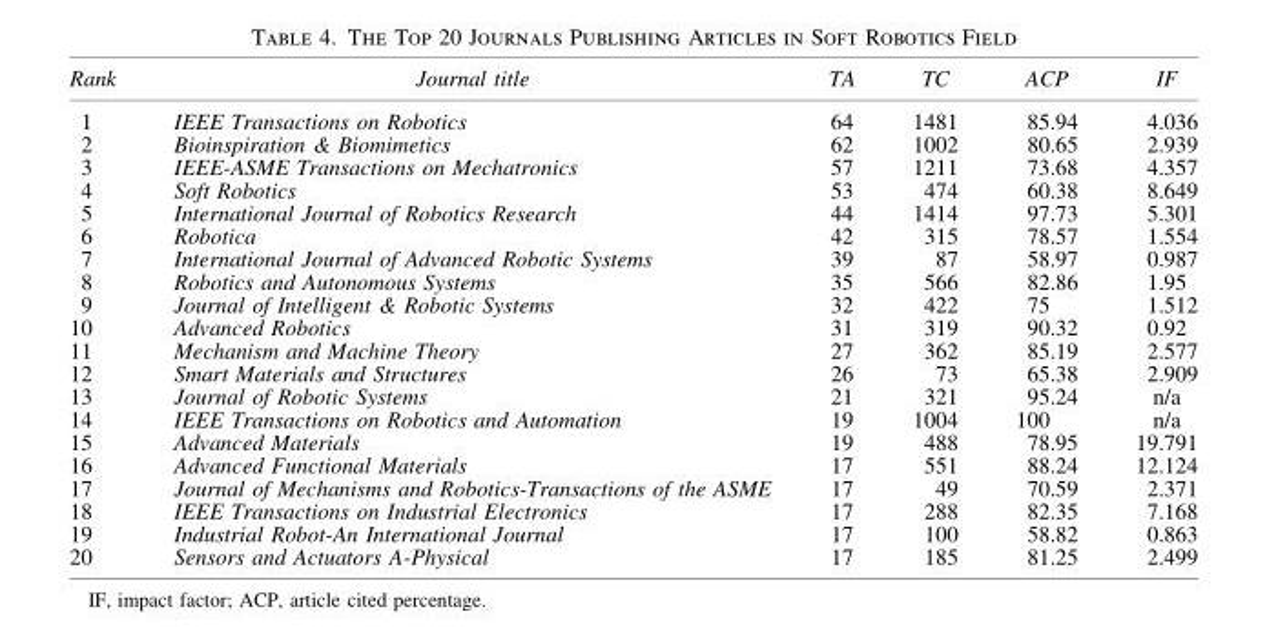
<table><thead><tr><td>Rank</td><td>Journal title</td><td>TA</td><td>TC</td><td>ACP</td><td>IF</td></tr></thead><tbody><tr><td>1</td><td>IEEE Transactions on Robotics</td><td>64</td><td>1481</td><td>85.94</td><td>4.036</td></tr><tr><td>2</td><td>Bioinspiration &amp; Biomimetics</td><td>62</td><td>1002</td><td>80.65</td><td>2.939</td></tr><tr><td>3</td><td>IEEE-ASME Transactions on Mechatronics</td><td>57</td><td>1211</td><td>73.68</td><td>4.357</td></tr><tr><td>4</td><td>Soft Robotics</td><td>53</td><td>474</td><td>60.38</td><td>8.649</td></tr><tr><td>5</td><td>International Journal of Robotics Research</td><td>44</td><td>1414</td><td>97.73</td><td>5.301</td></tr><tr><td>6</td><td>Robotica</td><td>42</td><td>315</td><td>78.57</td><td>1.554</td></tr><tr><td>7</td><td>International Journal of Advanced Robotic Systems</td><td>39</td><td>87</td><td>58.97</td><td>0.987</td></tr><tr><td>8</td><td>Robotics and Autonomous Systems</td><td>35</td><td>566</td><td>82.86</td><td>1.95</td></tr><tr><td>9</td><td>Journal of Intelligent &amp; Robotic Systems</td><td>32</td><td>422</td><td>75</td><td>1.512</td></tr><tr><td>10</td><td>Advanced Robotics</td><td>31</td><td>319</td><td>90.32</td><td>0.92</td></tr><tr><td>11</td><td>Mechanism and Machine Theory</td><td>27</td><td>362</td><td>85.19</td><td>2.577</td></tr><tr><td>12</td><td>Smart Materials and Structures</td><td>26</td><td>73</td><td>65.38</td><td>2.909</td></tr><tr><td>13</td><td>Journal of Robotic Systems</td><td>21</td><td>321</td><td>95.24</td><td>n/a</td></tr><tr><td>14</td><td>IEEE Transactions on Robotics and Automation</td><td>19</td><td>1004</td><td>100</td><td>n/a</td></tr><tr><td>15</td><td>Advanced Materials</td><td>19</td><td>488</td><td>78.95</td><td>19.791</td></tr><tr><td>16</td><td>Advanced Functional Materials</td><td>17</td><td>551</td><td>88.24</td><td>12.124</td></tr><tr><td>17</td><td>Journal of Mechanisms and Robotics-Transactions of the ASME</td><td>17</td><td>49</td><td>70.59</td><td>2.371</td></tr><tr><td>18</td><td>IEEE Transactions on Industrial Electronics</td><td>17</td><td>288</td><td>82.35</td><td>7.168</td></tr><tr><td>19</td><td>Industrial Robot-An International Journal</td><td>17</td><td>100</td><td>58.82</td><td>0.863</td></tr><tr><td>20</td><td>Sensors and Actuators A-Physical</td><td>17</td><td>185</td><td>81.25</td><td>2.499</td></tr></tbody></table>